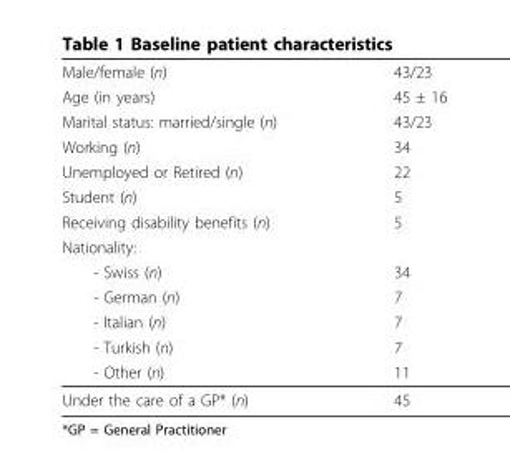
<table><thead><tr><td rowspan="13">Male/female (n) Age (in years) Marital status: married/single (n) Working (n) Unemployed or Retired (n) Student (n) Receiving disability benefits (n) Nationality: - Swiss (n) - German (n) - Italian (n) - Turkish (n) - Other (n)</td><td rowspan="13">43/23 45 ± 16 43/23 34 22 5 5 34 7 7 7 11</td></tr><tr></tr><tr></tr><tr></tr><tr></tr><tr></tr><tr></tr><tr></tr><tr></tr><tr></tr><tr></tr><tr></tr><tr></tr></thead><tbody><tr><td>Under the care of a GP* (n)</td><td>45</td></tr></tbody></table>